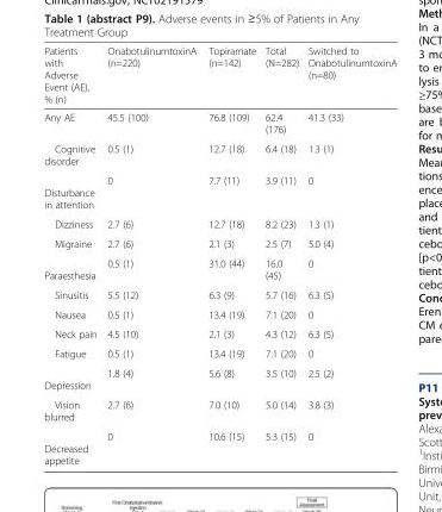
<table><thead><tr><td>Patients with Adverse Event (AE), % (n)</td><td>OnabotulinumtoxinA (n=220)</td><td>Topiramate (n=142)</td><td>Total (N=282)</td><td>Switched to OnabotulinumtoxinA (n=80)</td></tr></thead><tbody><tr><td>Any AE</td><td>45.5 (100)</td><td>76.8 (109)</td><td>62.4 (176)</td><td>41.3 (33)</td></tr><tr><td>Cognitive disorder</td><td>0.5 (1)</td><td>12.7 (18)</td><td>6.4 (18)</td><td>1.3 (1)</td></tr><tr><td>Disturbance in attention</td><td>0</td><td>7.7 (11)</td><td>3.9 (11)</td><td>0</td></tr><tr><td>Dizziness</td><td>2.7 (6)</td><td>12.7 (18)</td><td>8.2 (23)</td><td>1.3 (1)</td></tr><tr><td>Migraine</td><td>2.7 (6)</td><td>2.1 (3)</td><td>2.5 (7)</td><td>5.0 (4)</td></tr><tr><td>Paraesthesia</td><td>0.5 (1)</td><td>31.0 (44)</td><td>16.0 (45)</td><td>0</td></tr><tr><td>Sinusitis</td><td>5.5 (12)</td><td>6.3 (9)</td><td>5.7 (16)</td><td>6.3 (5)</td></tr><tr><td>Nausea</td><td>0.5 (1)</td><td>13.4 (19)</td><td>7.1 (20)</td><td>0</td></tr><tr><td>Neck pain</td><td>4.5 (10)</td><td>2.1 (3)</td><td>4.3 (12)</td><td>6.3 (5)</td></tr><tr><td>Fatigue</td><td>0.5 (1)</td><td>13.4 (19)</td><td>7.1 (20)</td><td>0</td></tr><tr><td>Depression</td><td>1.8 (4)</td><td>5.6 (8)</td><td>3.5 (10)</td><td>2.5 (2)</td></tr><tr><td>Vision blurred</td><td>2.7 (6)</td><td>7.0 (10)</td><td>5.0 (14)</td><td>3.8 (3)</td></tr><tr><td>Decreased appetite</td><td>0</td><td>10.6 (15)</td><td>5.3 (15)</td><td>0</td></tr></tbody></table>